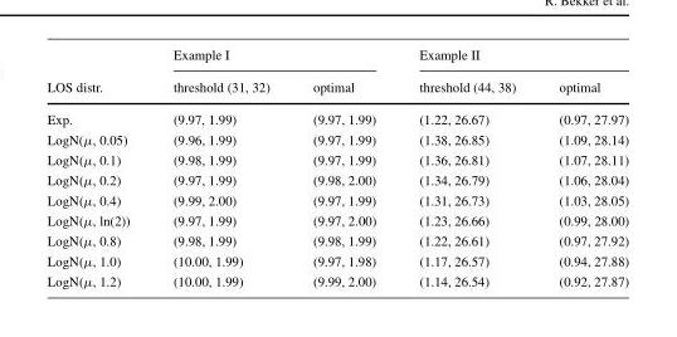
<table><thead><tr><td rowspan="2">LOS distr.</td><td colspan="2">Example I</td><td colspan="2">Example II</td></tr><tr><td>threshold (31, 32)</td><td>optimal</td><td>threshold (44, 38)</td><td>optimal</td></tr></thead><tbody><tr><td>Exp.</td><td>(9.97, 1.99)</td><td>(9.97, 1.99)</td><td>(1.22, 26.67)</td><td>(0.97, 27.97)</td></tr><tr><td>LogN(μ, 0.05)</td><td>(9.96, 1.99)</td><td>(9.97, 1.99)</td><td>(1.38, 26.85)</td><td>(1.09, 28.14)</td></tr><tr><td>LogN(μ, 0.1)</td><td>(9.98, 1.99)</td><td>(9.97, 1.99)</td><td>(1.36, 26.81)</td><td>(1.07, 28.11)</td></tr><tr><td>LogN(μ, 0.2)</td><td>(9.97, 1.99)</td><td>(9.98, 2.00)</td><td>(1.34, 26.79)</td><td>(1.06, 28.04)</td></tr><tr><td>LogN(μ, 0.4)</td><td>(9.99, 2.00)</td><td>(9.97, 1.99)</td><td>(1.31, 26.73)</td><td>(1.03, 28.05)</td></tr><tr><td>LogN(μ, ln(2))</td><td>(9.97, 1.99)</td><td>(9.97, 2.00)</td><td>(1.23, 26.66)</td><td>(0.99, 28.00)</td></tr><tr><td>LogN(μ, 0.8)</td><td>(9.98, 1.99)</td><td>(9.98, 1.99)</td><td>(1.22, 26.61)</td><td>(0.97, 27.92)</td></tr><tr><td>LogN(μ, 1.0)</td><td>(10.00, 1.99)</td><td>(9.97, 1.98)</td><td>(1.17, 26.57)</td><td>(0.94, 27.88)</td></tr><tr><td>LogN(μ, 1.2)</td><td>(10.00, 1.99)</td><td>(9.99, 2.00)</td><td>(1.14, 26.54)</td><td>(0.92, 27.87)</td></tr></tbody></table>